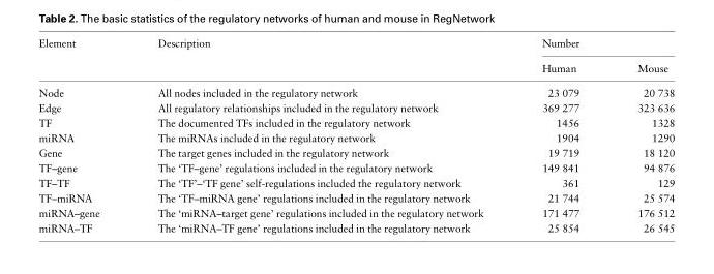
<table><thead><tr><td rowspan="2">Element</td><td rowspan="2">Description</td><td colspan="2">Number</td></tr><tr><td>Human</td><td>Mouse</td></tr></thead><tbody><tr><td>Node</td><td>All nodes included in the regulatory network</td><td>23 079</td><td>20 738</td></tr><tr><td>Edge</td><td>All regulatory relationships included in the regulatory network</td><td>369 277</td><td>323 636</td></tr><tr><td>TF</td><td>The documented TFs included in the regulatory network</td><td>1456</td><td>1328</td></tr><tr><td>miRNA</td><td>The miRNAs included in the regulatory network</td><td>1904</td><td>1290</td></tr><tr><td>Gene</td><td>The target genes included in the regulatory network</td><td>19 719</td><td>18 120</td></tr><tr><td>TF–gene</td><td>The ‘TF–gene’ regulations included in the regulatory network</td><td>149 841</td><td>94 876</td></tr><tr><td>TF–TF</td><td>The ‘TF’–‘TF gene’ self-regulations included the regulatory network</td><td>361</td><td>129</td></tr><tr><td>TF–miRNA</td><td>The ‘TF–miRNA gene’ regulations included in the regulatory network</td><td>21 744</td><td>25 574</td></tr><tr><td>miRNA–gene</td><td>The ‘miRNA–target gene’ regulations included in the regulatory network</td><td>171 477</td><td>176 512</td></tr><tr><td>miRNA–TF</td><td>The ‘miRNA–TF gene’ regulations included in the regulatory network</td><td>25 854</td><td>26 545</td></tr></tbody></table>